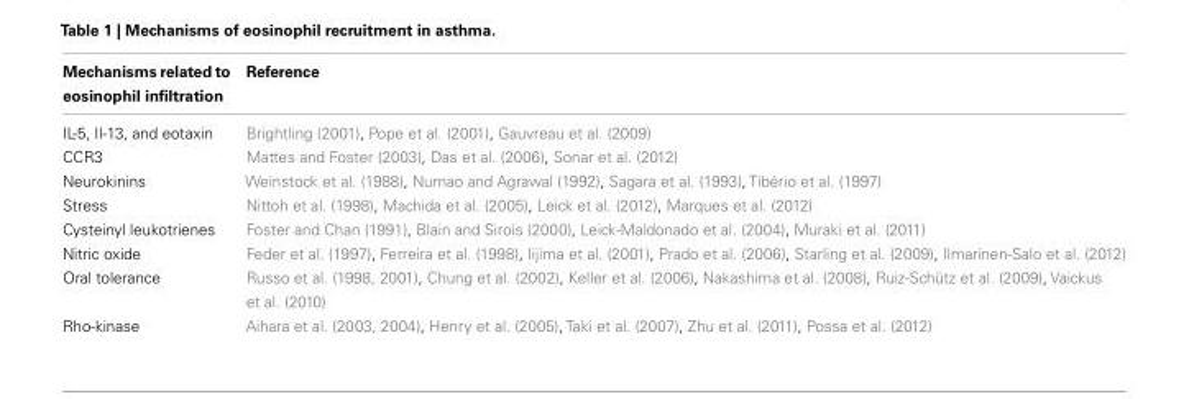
<table><thead><tr><td>Mechanisms related to eosinophil infiltration</td><td>Reference</td></tr></thead><tbody><tr><td>IL-5, Il-13, and eotaxin</td><td>Brightling (2001), Pope et al. (2001), Gauvreau et al. (2009)</td></tr><tr><td>CCR3</td><td>Mattes and Foster (2003), Das et al. (2006), Sonar et al. (2012)</td></tr><tr><td>Neurokinins</td><td>Weinstock et al. (1988), Numao and Agrawal (1992), Sagara et al. (1993), Tibério et al. (1997)</td></tr><tr><td>Stress</td><td>Nittoh et al. (1998), Machida et al. (2005), Leick et al. (2012), Marques et al. (2012)</td></tr><tr><td>Cysteinyl leukotrienes</td><td>Foster and Chan (1991), Blain and Sirois (2000), Leick-Maldonado et al. (2004), Muraki et al. (2011)</td></tr><tr><td>Nitric oxide</td><td>Feder et al. (1997), Ferreira et al. (1998), Iijima et al. (2001), Prado et al. (2006), Starling et al. (2009), Ilmarinen-Salo et al. (2012)</td></tr><tr><td>Oral tolerance</td><td>Russo et al. (1998, 2001), Chung et al. (2002), Keller et al. (2006), Nakashima et al. (2008), Ruiz-Schütz et al. (2009), Vaickus et al. (2010)</td></tr><tr><td>Rho-kinase</td><td>Aihara et al. (2003, 2004), Henry et al. (2005), Taki et al. (2007), Zhu et al. (2011), Possa et al. (2012)</td></tr></tbody></table>